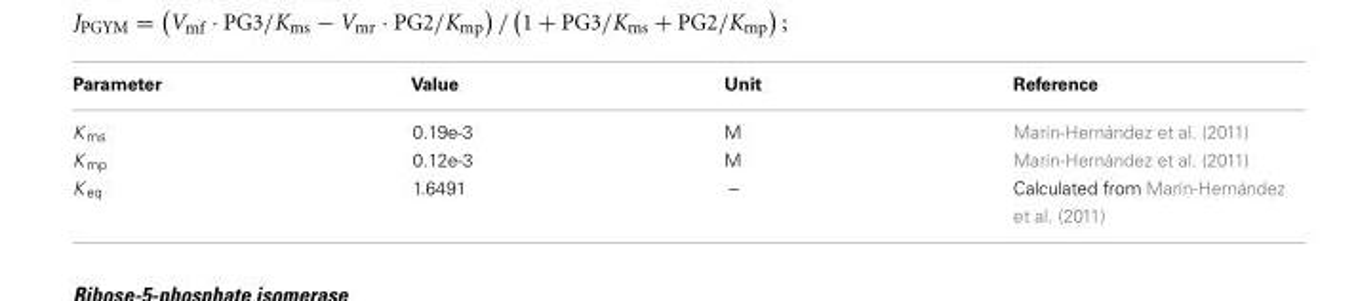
<table><thead><tr><td>Parameter</td><td>Value</td><td>Unit</td><td>Reference</td></tr></thead><tbody><tr><td>K <sub>ms</sub></td><td>0.19e-3</td><td>M</td><td>Marín-Hernández et al. (2011)</td></tr><tr><td>K <sub>mp</sub></td><td>0.12e-3</td><td>M</td><td>Marín-Hernández et al. (2011)</td></tr><tr><td>K <sub>eq</sub></td><td>1.6491</td><td>–</td><td>Calculated from Marín-Hernández et al. (2011)</td></tr></tbody></table>